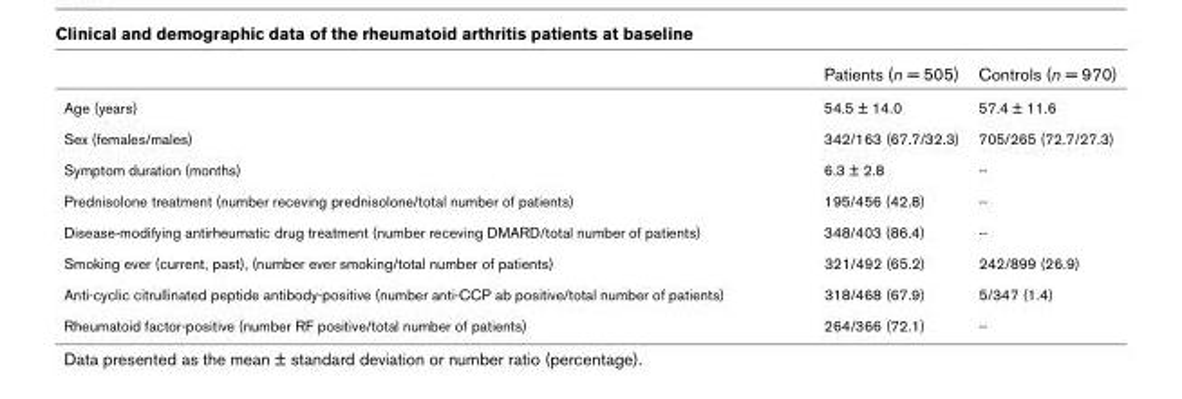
<table><thead><tr><td></td><td>Patients (n = 505)</td><td>Controls (n = 970)</td></tr></thead><tbody><tr><td>Age (years)</td><td>54.5 ± 14.0</td><td>57.4 ± 11.6</td></tr><tr><td>Sex (females/males)</td><td>342/163 (67.7/32.3)</td><td>705/265 (72.7/27.3)</td></tr><tr><td>Symptom duration (months)</td><td>6.3 ± 2.8</td><td>--</td></tr><tr><td>Prednisolone treatment (number receving prednisolone/total number of patients)</td><td>195/456 (42.8)</td><td>--</td></tr><tr><td>Disease-modifying antirheumatic drug treatment (number receving DMARD/total number of patients)</td><td>348/403 (86.4)</td><td>--</td></tr><tr><td>Smoking ever (current, past), (number ever smoking/total number of patients)</td><td>321/492 (65.2)</td><td>242/899 (26.9)</td></tr><tr><td>Anti-cyclic citrullinated peptide antibody-positive (number anti-CCP ab positive/total number of patients)</td><td>318/468 (67.9)</td><td>5/347 (1.4)</td></tr><tr><td>Rheumatoid factor-positive (number RF positive/total number of patients)</td><td>264/366 (72.1)</td><td>--</td></tr></tbody></table>